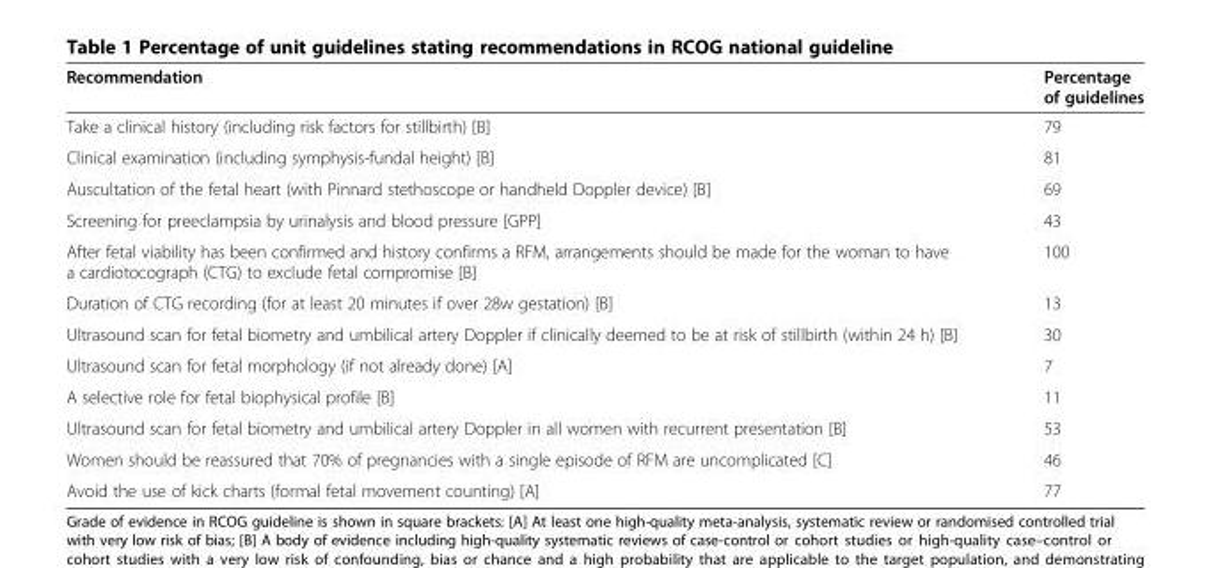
<table><thead><tr><td>Recommendation</td><td>Percentage of guidelines</td></tr></thead><tbody><tr><td>Take a clinical history (including risk factors for stillbirth) [B]</td><td>79</td></tr><tr><td>Clinical examination (including symphysis-fundal height) [B]</td><td>81</td></tr><tr><td>Auscultation of the fetal heart (with Pinnard stethoscope or handheld Doppler device) [B]</td><td>69</td></tr><tr><td>Screening for preeclampsia by urinalysis and blood pressure [GPP]</td><td>43</td></tr><tr><td>After fetal viability has been confirmed and history confirms a RFM, arrangements should be made for the woman to have a cardiotocograph (CTG) to exclude fetal compromise [B]</td><td>100</td></tr><tr><td>Duration of CTG recording (for at least 20 minutes if over 28w gestation) [B]</td><td>13</td></tr><tr><td>Ultrasound scan for fetal biometry and umbilical artery Doppler if clinically deemed to be at risk of stillbirth (within 24 h) [B]</td><td>30</td></tr><tr><td>Ultrasound scan for fetal morphology (if not already done) [A]</td><td>7</td></tr><tr><td>A selective role for fetal biophysical profile [B]</td><td>11</td></tr><tr><td>Ultrasound scan for fetal biometry and umbilical artery Doppler in all women with recurrent presentation [B]</td><td>53</td></tr><tr><td>Women should be reassured that 70% of pregnancies with a single episode of RFM are uncomplicated [C]</td><td>46</td></tr><tr><td>Avoid the use of kick charts (formal fetal movement counting) [A]</td><td>77</td></tr></tbody></table>